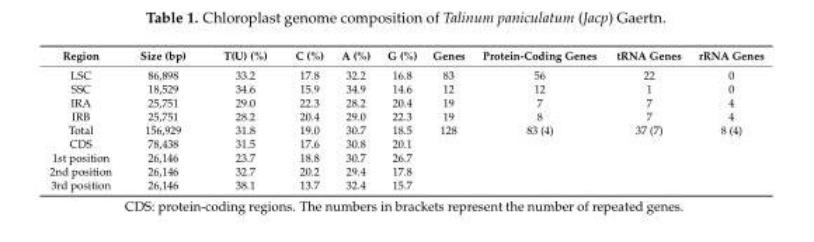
<table><thead><tr><td>Region</td><td>Size (bp)</td><td>T(U) (%)</td><td>C (%)</td><td>A (%)</td><td>G (%)</td><td>Genes</td><td>Protein-Coding Genes</td><td>tRNA Genes</td><td>rRNA Genes</td></tr></thead><tbody><tr><td>LSC</td><td>86,898</td><td>33.2</td><td>17.8</td><td>32.2</td><td>16.8</td><td>83</td><td>56</td><td>22</td><td>0</td></tr><tr><td>SSC</td><td>18,529</td><td>34.6</td><td>15.9</td><td>34.9</td><td>14.6</td><td>12</td><td>12</td><td>1</td><td>0</td></tr><tr><td>IRA</td><td>25,751</td><td>29.0</td><td>22.3</td><td>28.2</td><td>20.4</td><td>19</td><td>7</td><td>7</td><td>4</td></tr><tr><td>IRB</td><td>25,751</td><td>28.2</td><td>20.4</td><td>29.0</td><td>22.3</td><td>19</td><td>8</td><td>7</td><td>4</td></tr><tr><td>Total</td><td>156,929</td><td>31.8</td><td>19.0</td><td>30.7</td><td>18.5</td><td>128</td><td>83 (4)</td><td>37 (7)</td><td>8 (4)</td></tr><tr><td>CDS</td><td>78,438</td><td>31.5</td><td>17.6</td><td>30.8</td><td>20.1</td><td></td><td></td><td></td><td></td></tr><tr><td>1st position</td><td>26,146</td><td>23.7</td><td>18.8</td><td>30.7</td><td>26.7</td><td></td><td></td><td></td><td></td></tr><tr><td>2nd position</td><td>26,146</td><td>32.7</td><td>20.2</td><td>29.4</td><td>17.8</td><td></td><td></td><td></td><td></td></tr><tr><td>3rd position</td><td>26,146</td><td>38.1</td><td>13.7</td><td>32.4</td><td>15.7</td><td></td><td></td><td></td><td></td></tr></tbody></table>